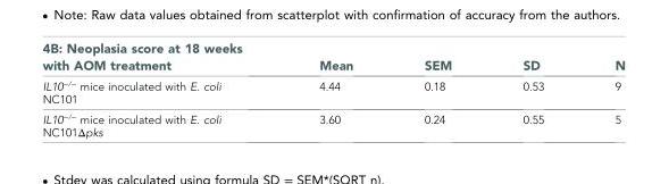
<table><thead><tr><td>4B: Neoplasia score at 18 weeks with AOM treatment</td><td>Mean</td><td>SEM</td><td>SD</td><td>N</td></tr></thead><tbody><tr><td>IL10<sup>−/−</sup> mice inoculated with E. coli NC101</td><td>4.44</td><td>0.18</td><td>0.53</td><td>9</td></tr><tr><td>IL10<sup>−/−</sup> mice inoculated with E. coli NC101Δpks</td><td>3.60</td><td>0.24</td><td>0.55</td><td>5</td></tr></tbody></table>